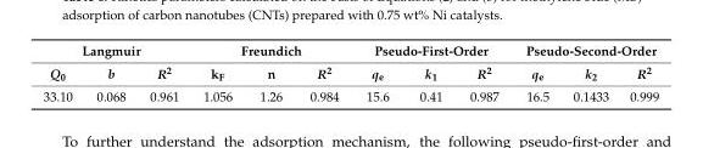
<table><thead><tr><td colspan="3">Langmuir</td><td colspan="3">Freundich</td><td colspan="3">Pseudo-First-Order</td><td colspan="3">Pseudo-Second-Order</td></tr><tr><td>Q<sub>0</sub></td><td>b</td><td>R<sup>2</sup></td><td>k<sub>F</sub></td><td>n</td><td>R<sup>2</sup></td><td>q<sub>e</sub></td><td>k<sub>1</sub></td><td>R<sup>2</sup></td><td>q<sub>e</sub></td><td>k<sub>2</sub></td><td>R<sup>2</sup></td></tr></thead><tbody><tr><td>33.10</td><td>0.068</td><td>0.961</td><td>1.056</td><td>1.26</td><td>0.984</td><td>15.6</td><td>0.41</td><td>0.987</td><td>16.5</td><td>0.1433</td><td>0.999</td></tr></tbody></table>